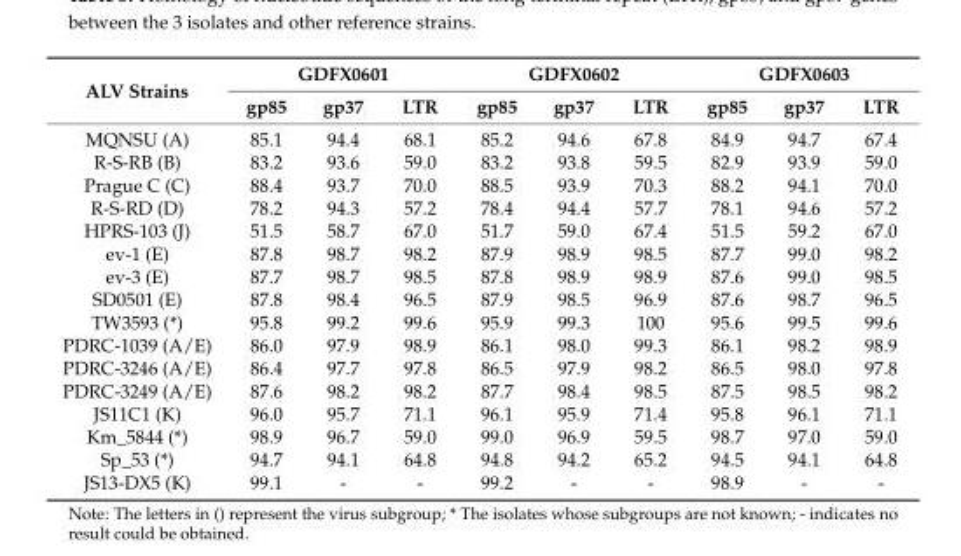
<table><thead><tr><td rowspan="2">ALV Strains</td><td colspan="3">GDFX0601</td><td colspan="3">GDFX0602</td><td colspan="3">GDFX0603</td></tr><tr><td>gp85</td><td>gp37</td><td>LTR</td><td>gp85</td><td>gp37</td><td>LTR</td><td>gp85</td><td>gp37</td><td>LTR</td></tr></thead><tbody><tr><td>MQNSU (A)</td><td>85.1</td><td>94.4</td><td>68.1</td><td>85.2</td><td>94.6</td><td>67.8</td><td>84.9</td><td>94.7</td><td>67.4</td></tr><tr><td>R-S-RB (B)</td><td>83.2</td><td>93.6</td><td>59.0</td><td>83.2</td><td>93.8</td><td>59.5</td><td>82.9</td><td>93.9</td><td>59.0</td></tr><tr><td>Prague C (C)</td><td>88.4</td><td>93.7</td><td>70.0</td><td>88.5</td><td>93.9</td><td>70.3</td><td>88.2</td><td>94.1</td><td>70.0</td></tr><tr><td>R-S-RD (D)</td><td>78.2</td><td>94.3</td><td>57.2</td><td>78.4</td><td>94.4</td><td>57.7</td><td>78.1</td><td>94.6</td><td>57.2</td></tr><tr><td>HPRS-103 (J)</td><td>51.5</td><td>58.7</td><td>67.0</td><td>51.7</td><td>59.0</td><td>67.4</td><td>51.5</td><td>59.2</td><td>67.0</td></tr><tr><td>ev-1 (E)</td><td>87.8</td><td>98.7</td><td>98.2</td><td>87.9</td><td>98.9</td><td>98.5</td><td>87.7</td><td>99.0</td><td>98.2</td></tr><tr><td>ev-3 (E)</td><td>87.7</td><td>98.7</td><td>98.5</td><td>87.8</td><td>98.9</td><td>98.9</td><td>87.6</td><td>99.0</td><td>98.5</td></tr><tr><td>SD0501 (E)</td><td>87.8</td><td>98.4</td><td>96.5</td><td>87.9</td><td>98.5</td><td>96.9</td><td>87.6</td><td>98.7</td><td>96.5</td></tr><tr><td>TW3593 (*)</td><td>95.8</td><td>99.2</td><td>99.6</td><td>95.9</td><td>99.3</td><td>100</td><td>95.6</td><td>99.5</td><td>99.6</td></tr><tr><td>PDRC-1039 (A/E)</td><td>86.0</td><td>97.9</td><td>98.9</td><td>86.1</td><td>98.0</td><td>99.3</td><td>86.1</td><td>98.2</td><td>98.9</td></tr><tr><td>PDRC-3246 (A/E)</td><td>86.4</td><td>97.7</td><td>97.8</td><td>86.5</td><td>97.9</td><td>98.2</td><td>86.5</td><td>98.0</td><td>97.8</td></tr><tr><td>PDRC-3249 (A/E)</td><td>87.6</td><td>98.2</td><td>98.2</td><td>87.7</td><td>98.4</td><td>98.5</td><td>87.5</td><td>98.5</td><td>98.2</td></tr><tr><td>JS11C1 (K)</td><td>96.0</td><td>95.7</td><td>71.1</td><td>96.1</td><td>95.9</td><td>71.4</td><td>95.8</td><td>96.1</td><td>71.1</td></tr><tr><td>Km_5844 (*)</td><td>98.9</td><td>96.7</td><td>59.0</td><td>99.0</td><td>96.9</td><td>59.5</td><td>98.7</td><td>97.0</td><td>59.0</td></tr><tr><td>Sp_53 (*)</td><td>94.7</td><td>94.1</td><td>64.8</td><td>94.8</td><td>94.2</td><td>65.2</td><td>94.5</td><td>94.1</td><td>64.8</td></tr><tr><td>JS13-DX5 (K)</td><td>99.1</td><td>-</td><td>-</td><td>99.2</td><td>-</td><td>-</td><td>98.9</td><td>-</td><td>-</td></tr></tbody></table>